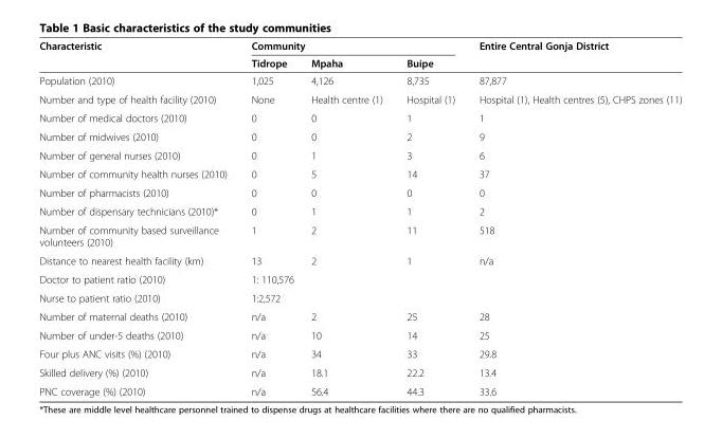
<table><thead><tr><td rowspan="2">Characteristic</td><td colspan="3">Community</td><td rowspan="2">Entire Central Gonja District</td></tr><tr><td>Tidrope</td><td>Mpaha</td><td>Buipe</td></tr></thead><tbody><tr><td>Population (2010)</td><td>1,025</td><td>4,126</td><td>8,735</td><td>87,877</td></tr><tr><td>Number and type of health facility (2010)</td><td>None</td><td>Health centre (1)</td><td>Hospital (1)</td><td>Hospital (1), Health centres (5), CHPS zones (11)</td></tr><tr><td>Number of medical doctors (2010)</td><td>0</td><td>0</td><td>1</td><td>1</td></tr><tr><td>Number of midwives (2010)</td><td>0</td><td>0</td><td>2</td><td>9</td></tr><tr><td>Number of general nurses (2010)</td><td>0</td><td>1</td><td>3</td><td>6</td></tr><tr><td>Number of community health nurses (2010)</td><td>0</td><td>5</td><td>14</td><td>37</td></tr><tr><td>Number of pharmacists (2010)</td><td>0</td><td>0</td><td>0</td><td>0</td></tr><tr><td>Number of dispensary technicians (2010)*</td><td>0</td><td>1</td><td>1</td><td>2</td></tr><tr><td>Number of community based surveillance volunteers (2010)</td><td>1</td><td>2</td><td>11</td><td>518</td></tr><tr><td>Distance to nearest health facility (km)</td><td>13</td><td>2</td><td>1</td><td>n/a</td></tr><tr><td>Doctor to patient ratio (2010)</td><td colspan="4">1: 110,576</td></tr><tr><td>Nurse to patient ratio (2010)</td><td colspan="4">1:2,572</td></tr><tr><td>Number of maternal deaths (2010)</td><td>n/a</td><td>2</td><td>25</td><td>28</td></tr><tr><td>Number of under-5 deaths (2010)</td><td>n/a</td><td>10</td><td>14</td><td>25</td></tr><tr><td>Four plus ANC visits (%) (2010)</td><td>n/a</td><td>34</td><td>33</td><td>29.8</td></tr><tr><td>Skilled delivery (%) (2010)</td><td>n/a</td><td>18.1</td><td>22.2</td><td>13.4</td></tr><tr><td>PNC coverage (%) (2010)</td><td>n/a</td><td>56.4</td><td>44.3</td><td>33.6</td></tr></tbody></table>